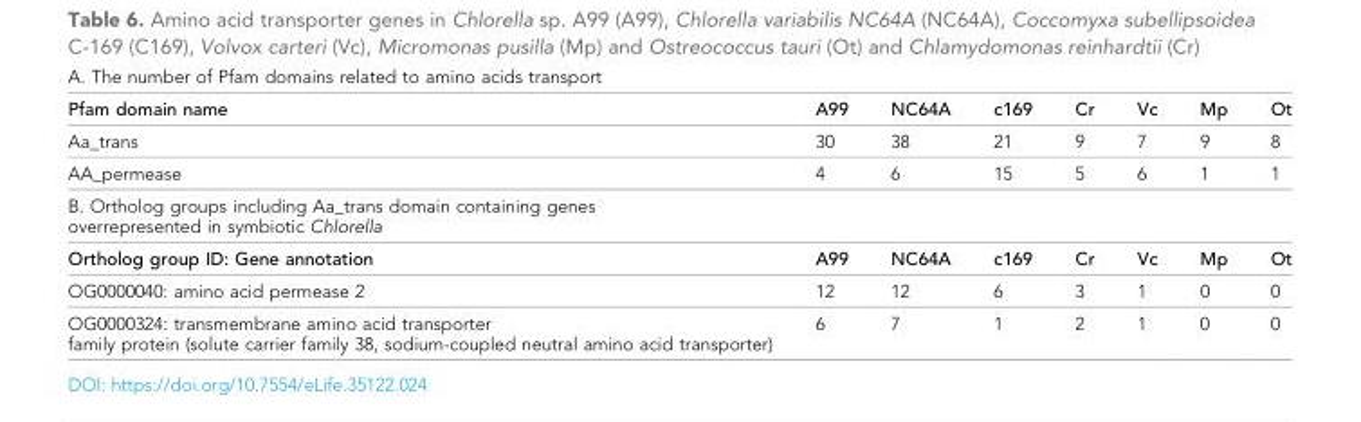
<table><tbody><tr><td colspan="8">A. The number of Pfam domains related to amino acids transport</td></tr><tr><td>Pfam domain name</td><td>A99</td><td>NC64A</td><td>c169</td><td>Cr</td><td>Vc</td><td>Mp</td><td>Ot</td></tr><tr><td>Aa_trans</td><td>30</td><td>38</td><td>21</td><td>9</td><td>7</td><td>9</td><td>8</td></tr><tr><td>AA_permease</td><td>4</td><td>6</td><td>15</td><td>5</td><td>6</td><td>1</td><td>1</td></tr><tr><td colspan="8">B. Ortholog groups including Aa_trans domain containing genes overrepresented in symbiotic Chlorella</td></tr><tr><td>Ortholog group ID: Gene annotation</td><td>A99</td><td>NC64A</td><td>c169</td><td>Cr</td><td>Vc</td><td>Mp</td><td>Ot</td></tr><tr><td>OG0000040: amino acid permease 2</td><td>12</td><td>12</td><td>6</td><td>3</td><td>1</td><td>0</td><td>0</td></tr><tr><td>OG0000324: transmembrane amino acid transporter family protein (solute carrier family 38, sodium-coupled neutral amino acid transporter)</td><td>6</td><td>7</td><td>1</td><td>2</td><td>1</td><td>0</td><td>0</td></tr></tbody></table>